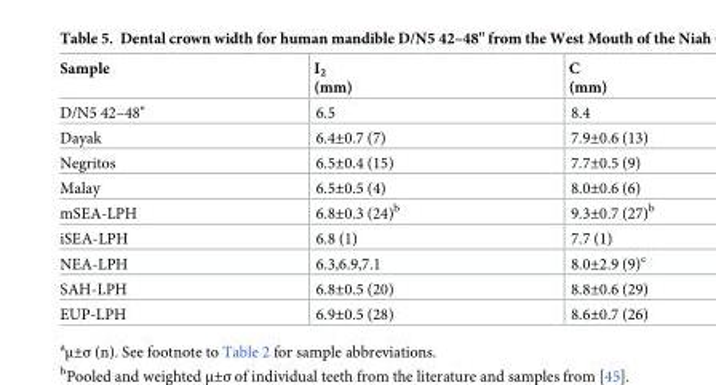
<table><thead><tr><td>Sample</td><td>I<sub>2</sub> (mm)</td><td>C (mm)</td></tr></thead><tbody><tr><td>D/N5 42–48&quot;</td><td>6.5</td><td>8.4</td></tr><tr><td>Dayak</td><td>6.4±0.7 (7)</td><td>7.9±0.6 (13)</td></tr><tr><td>Negritos</td><td>6.5±0.4 (15)</td><td>7.7±0.5 (9)</td></tr><tr><td>Malay</td><td>6.5±0.5 (4)</td><td>8.0±0.6 (6)</td></tr><tr><td>mSEA-LPH</td><td>6.8±0.3 (24)<sup>b</sup></td><td>9.3±0.7 (27)<sup>b</sup></td></tr><tr><td>iSEA-LPH</td><td>6.8 (1)</td><td>7.7 (1)</td></tr><tr><td>NEA-LPH</td><td>6.3,6.9,7.1</td><td>8.0±2.9 (9)<sup>c</sup></td></tr><tr><td>SAH-LPH</td><td>6.8±0.5 (20)</td><td>8.8±0.6 (29)</td></tr><tr><td>EUP-LPH</td><td>6.9±0.5 (28)</td><td>8.6±0.7 (26)</td></tr></tbody></table>